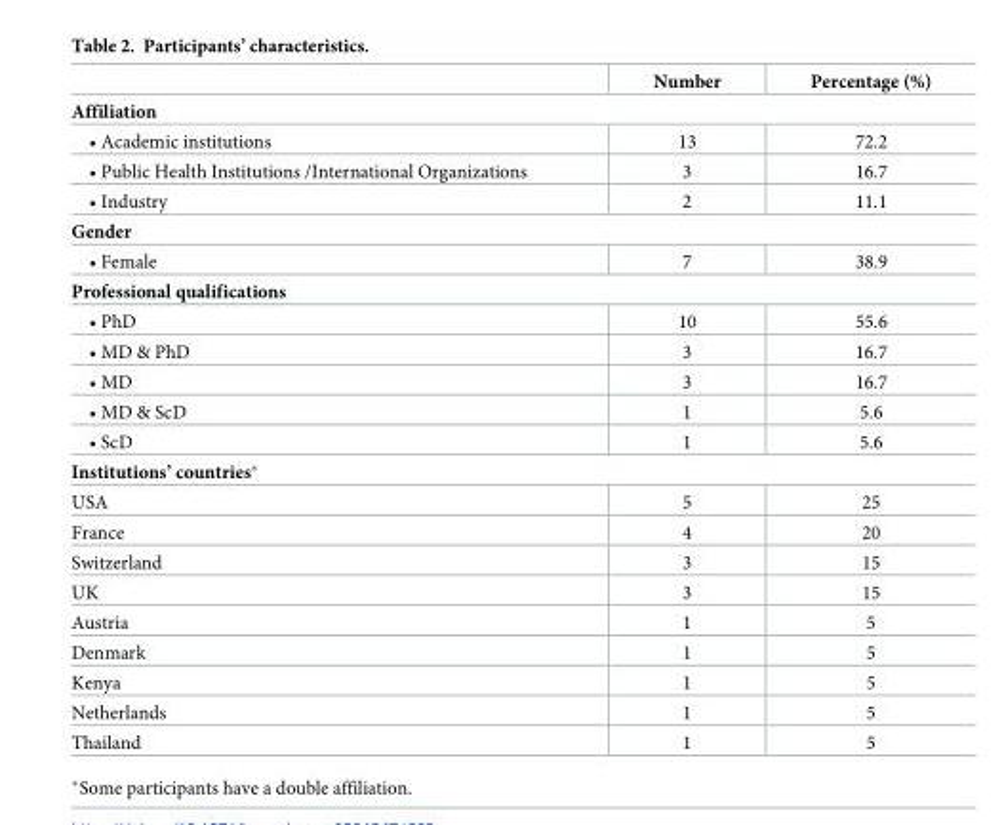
<table><thead><tr><td></td><td>Number</td><td>Percentage (%)</td></tr></thead><tbody><tr><td colspan="3">Affiliation</td></tr><tr><td>• Academic institutions</td><td>13</td><td>72.2</td></tr><tr><td>• Public Health Institutions /International Organizations</td><td>3</td><td>16.7</td></tr><tr><td>• Industry</td><td>2</td><td>11.1</td></tr><tr><td colspan="3">Gender</td></tr><tr><td>• Female</td><td>7</td><td>38.9</td></tr><tr><td colspan="3">Professional qualifications</td></tr><tr><td>• PhD</td><td>10</td><td>55.6</td></tr><tr><td>• MD &amp; PhD</td><td>3</td><td>16.7</td></tr><tr><td>• MD</td><td>3</td><td>16.7</td></tr><tr><td>• MD &amp; ScD</td><td>1</td><td>5.6</td></tr><tr><td>• ScD</td><td>1</td><td>5.6</td></tr><tr><td colspan="3">Institutions’ countries*</td></tr><tr><td>USA</td><td>5</td><td>25</td></tr><tr><td>France</td><td>4</td><td>20</td></tr><tr><td>Switzerland</td><td>3</td><td>15</td></tr><tr><td>UK</td><td>3</td><td>15</td></tr><tr><td>Austria</td><td>1</td><td>5</td></tr><tr><td>Denmark</td><td>1</td><td>5</td></tr><tr><td>Kenya</td><td>1</td><td>5</td></tr><tr><td>Netherlands</td><td>1</td><td>5</td></tr><tr><td>Thailand</td><td>1</td><td>5</td></tr></tbody></table>